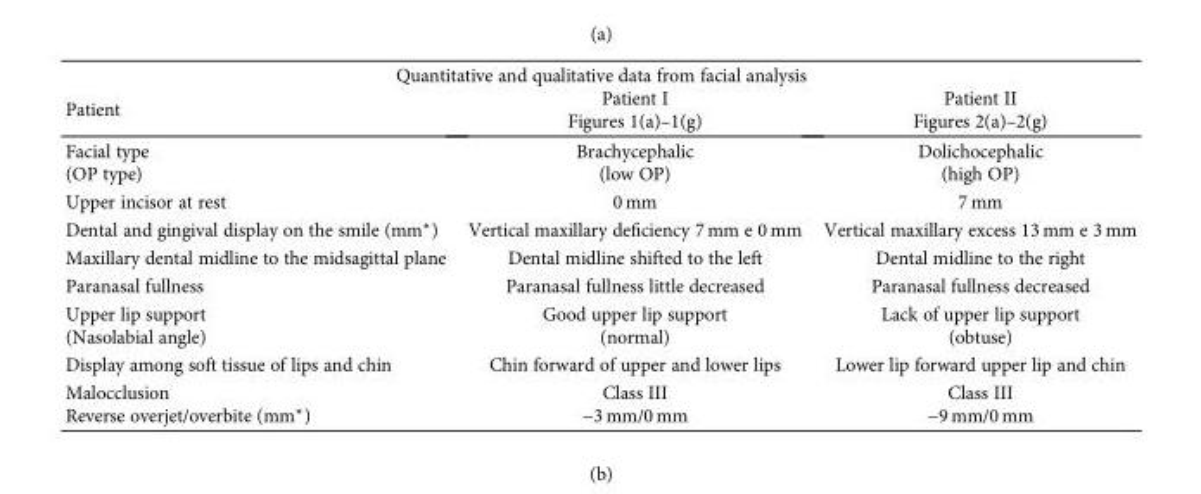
<table><thead><tr><td colspan="3">Quantitative and qualitative data from facial analysis</td></tr><tr><td>Patient</td><td>Patient I Figures 1(a)–1(g)</td><td>Patient II Figures 2(a)–2(g)</td></tr></thead><tbody><tr><td>Facial type (OP type)</td><td>Brachycephalic (low OP)</td><td>Dolichocephalic (high OP)</td></tr><tr><td>Upper incisor at rest</td><td>0 mm</td><td>7 mm</td></tr><tr><td>Dental and gingival display on the smile (mm∗)</td><td>Vertical maxillary deficiency 7 mm e 0 mm</td><td>Vertical maxillary excess 13 mm e 3 mm</td></tr><tr><td>Maxillary dental midline to the midsagittal plane</td><td>Dental midline shifted to the left</td><td>Dental midline to the right</td></tr><tr><td>Paranasal fullness</td><td>Paranasal fullness little decreased</td><td>Paranasal fullness decreased</td></tr><tr><td>Upper lip support (Nasolabial angle)</td><td>Good upper lip support (normal)</td><td>Lack of upper lip support (obtuse)</td></tr><tr><td>Display among soft tissue of lips and chin</td><td>Chin forward of upper and lower lips</td><td>Lower lip forward upper lip and chin</td></tr><tr><td>Malocclusion Reverse overjet/overbite (mm∗)</td><td>Class III −3 mm/0 mm</td><td>Class III −9 mm/0 mm</td></tr></tbody></table>